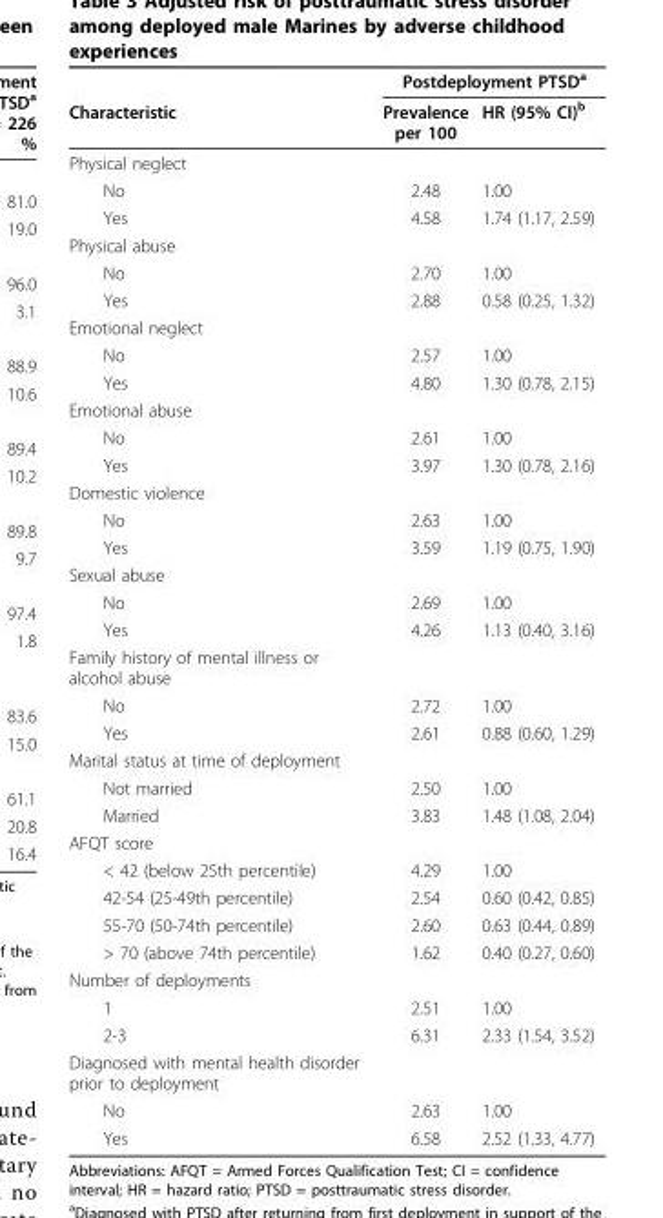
<table><thead><tr><td rowspan="2">Characteristic</td><td colspan="2">Postdeployment PTSD<sup>a</sup></td></tr><tr><td>Prevalence per 100</td><td>HR (95% CI)<sup>b</sup></td></tr></thead><tbody><tr><td colspan="3">Physical neglect</td></tr><tr><td>No</td><td>2.48</td><td>1.00</td></tr><tr><td>Yes</td><td>4.58</td><td>1.74 (1.17, 2.59)</td></tr><tr><td colspan="3">Physical abuse</td></tr><tr><td>No</td><td>2.70</td><td>1.00</td></tr><tr><td>Yes</td><td>2.88</td><td>0.58 (0.25, 1.32)</td></tr><tr><td colspan="3">Emotional neglect</td></tr><tr><td>No</td><td>2.57</td><td>1.00</td></tr><tr><td>Yes</td><td>4.80</td><td>1.30 (0.78, 2.15)</td></tr><tr><td colspan="3">Emotional abuse</td></tr><tr><td>No</td><td>2.61</td><td>1.00</td></tr><tr><td>Yes</td><td>3.97</td><td>1.30 (0.78, 2.16)</td></tr><tr><td colspan="3">Domestic violence</td></tr><tr><td>No</td><td>2.63</td><td>1.00</td></tr><tr><td>Yes</td><td>3.59</td><td>1.19 (0.75, 1.90)</td></tr><tr><td colspan="3">Sexual abuse</td></tr><tr><td>No</td><td>2.69</td><td>1.00</td></tr><tr><td>Yes</td><td>4.26</td><td>1.13 (0.40, 3.16)</td></tr><tr><td colspan="3">Family history of mental illness or alcohol abuse</td></tr><tr><td>No</td><td>2.72</td><td>1.00</td></tr><tr><td>Yes</td><td>2.61</td><td>0.88 (0.60, 1.29)</td></tr><tr><td colspan="3">Marital status at time of deployment</td></tr><tr><td>Not married</td><td>2.50</td><td>1.00</td></tr><tr><td>Married</td><td>3.83</td><td>1.48 (1.08, 2.04)</td></tr><tr><td colspan="3">AFQT score</td></tr><tr><td>&lt; 42 (below 25th percentile)</td><td>4.29</td><td>1.00</td></tr><tr><td>42-54 (25-49th percentile)</td><td>2.54</td><td>0.60 (0.42, 0.85)</td></tr><tr><td>55-70 (50-74th percentile)</td><td>2.60</td><td>0.63 (0.44, 0.89)</td></tr><tr><td>&gt; 70 (above 74th percentile)</td><td>1.62</td><td>0.40 (0.27, 0.60)</td></tr><tr><td colspan="3">Number of deployments</td></tr><tr><td>1</td><td>2.51</td><td>1.00</td></tr><tr><td>2-3</td><td>6.31</td><td>2.33 (1.54, 3.52)</td></tr><tr><td colspan="3">Diagnosed with mental health disorder prior to deployment</td></tr><tr><td>No</td><td>2.63</td><td>1.00</td></tr><tr><td>Yes</td><td>6.58</td><td>2.52 (1.33, 4.77)</td></tr></tbody></table>